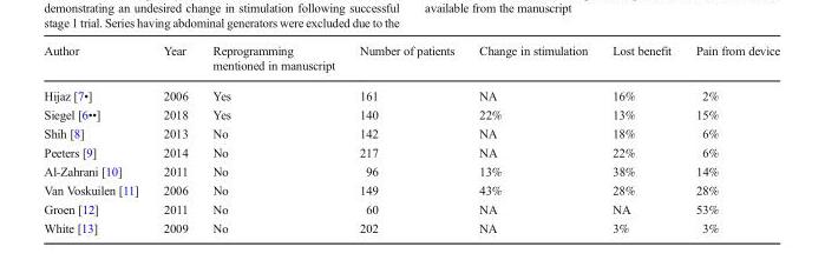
<table><thead><tr><td>Author</td><td>Year</td><td>Reprogramming mentioned in manuscript</td><td>Number of patients</td><td>Change in stimulation</td><td>Lost benefit</td><td>Pain from device</td></tr></thead><tbody><tr><td>Hijaz [7•]</td><td>2006</td><td>Yes</td><td>161</td><td>NA</td><td>16%</td><td>2%</td></tr><tr><td>Siegel [6••]</td><td>2018</td><td>Yes</td><td>140</td><td>22%</td><td>13%</td><td>15%</td></tr><tr><td>Shih [8]</td><td>2013</td><td>No</td><td>142</td><td>NA</td><td>18%</td><td>6%</td></tr><tr><td>Peeters [9]</td><td>2014</td><td>No</td><td>217</td><td>NA</td><td>22%</td><td>6%</td></tr><tr><td>Al-Zahrani [10]</td><td>2011</td><td>No</td><td>96</td><td>13%</td><td>38%</td><td>14%</td></tr><tr><td>Van Voskuilen [11]</td><td>2006</td><td>No</td><td>149</td><td>43%</td><td>28%</td><td>28%</td></tr><tr><td>Groen [12]</td><td>2011</td><td>No</td><td>60</td><td>NA</td><td>NA</td><td>53%</td></tr><tr><td>White [13]</td><td>2009</td><td>No</td><td>202</td><td>NA</td><td>3%</td><td>3%</td></tr></tbody></table>